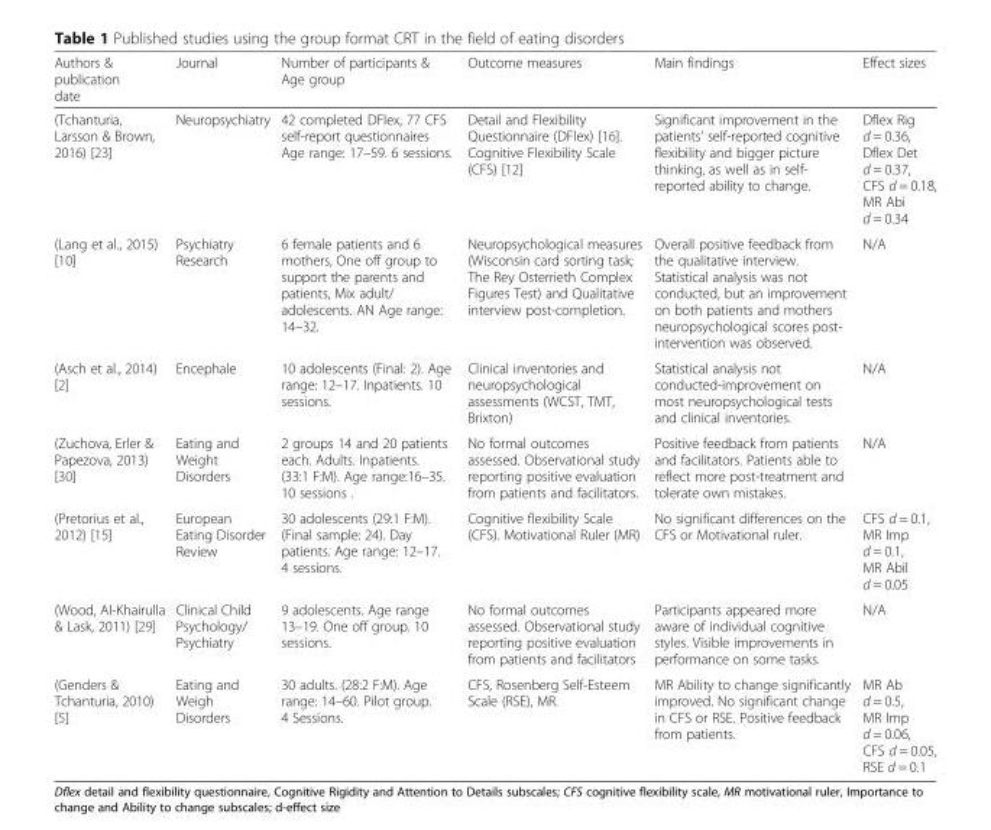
<table><thead><tr><td>Authors &amp; publication date</td><td>Journal</td><td>Number of participants &amp; Age group</td><td>Outcome measures</td><td>Main findings</td><td>Effect sizes</td></tr></thead><tbody><tr><td>(Tchanturia, Larsson &amp; Brown, 2016) [23]</td><td>Neuropsychiatry</td><td>42 completed DFlex, 77 CFS self-report questionnaires Age range: 17–59. 6 sessions.</td><td>Detail and Flexibility Questionnaire (DFlex) [16]. Cognitive Flexibility Scale (CFS) [12]</td><td>Significant improvement in the patients’ self-reported cognitive flexibility and bigger picture thinking, as well as in self- reported ability to change.</td><td>Dflex Rig d = 0.36, Dflex Det d = 0.37, CFS d = 0.18, MR Abi d = 0.34</td></tr><tr><td>(Lang et al., 2015) [10]</td><td>Psychiatry Research</td><td>6 female patients and 6 mothers, One off group to support the parents and patients, Mix adult/ adolescents. AN Age range: 14–32.</td><td>Neuropsychological measures (Wisconsin card sorting task; The Rey Osterrieth Complex Figures Test) and Qualitative interview post-completion.</td><td>Overall positive feedback from the qualitative interview. Statistical analysis was not conducted, but an improvement on both patients and mothers neuropsychological scores post- intervention was observed.</td><td>N/A</td></tr><tr><td>(Asch et al., 2014) [2]</td><td>Encephale</td><td>10 adolescents (Final: 2). Age range: 12–17. Inpatients. 10 sessions.</td><td>Clinical inventories and neuropsychological assessments (WCST, TMT, Brixton)</td><td>Statistical analysis not conducted-improvement on most neuropsychological tests and clinical inventories.</td><td>N/A</td></tr><tr><td>(Zuchova, Erler &amp; Papezova, 2013) [30]</td><td>Eating and Weight Disorders</td><td>2 groups 14 and 20 patients each. Adults. Inpatients. (33:1 F:M). Age range:16–35. 10 sessions .</td><td>No formal outcomes assessed. Observational study reporting positive evaluation from patients and facilitators.</td><td>Positive feedback from patients and facilitators. Patients able to reflect more post-treatment and tolerate own mistakes.</td><td>N/A</td></tr><tr><td>(Pretorius et al., 2012) [15]</td><td>European Eating Disorder Review</td><td>30 adolescents (29:1 F:M). (Final sample: 24). Day patients. Age range: 12–17. 4 sessions.</td><td>Cognitive flexibility Scale (CFS). Motivational Ruler (MR)</td><td>No significant differences on the CFS or Motivational ruler.</td><td>CFS d = 0.1, MR Imp d = 0.1, MR Abil d = 0.05</td></tr><tr><td>(Wood, Al-Khairulla &amp; Lask, 2011) [29]</td><td>Clinical Child Psychology/ Psychiatry</td><td>9 adolescents. Age range 13–19. One off group. 10 sessions.</td><td>No formal outcomes assessed. Observational study reporting positive evaluation from patients and facilitators</td><td>Participants appeared more aware of individual cognitive styles. Visible improvements in performance on some tasks.</td><td>N/A</td></tr><tr><td>(Genders &amp; Tchanturia, 2010) [5]</td><td>Eating and Weigh Disorders</td><td>30 adults. (28:2 F:M). Age range: 14–60. Pilot group. 4 Sessions.</td><td>CFS, Rosenberg Self-Esteem Scale (RSE), MR.</td><td>MR Ability to change significantly improved. No significant change in CFS or RSE. Positive feedback from patients.</td><td>MR Ab d = 0.5, MR Imp d = 0.06, CFS d = 0.05, RSE d = 0.1</td></tr></tbody></table>